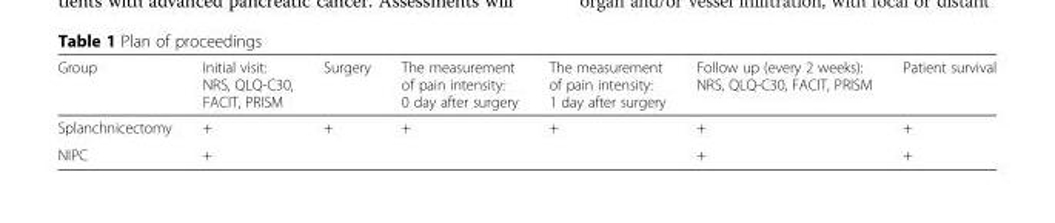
<table><thead><tr><td>Group</td><td>Initial visit: NRS, QLQ-C30, FACIT, PRISM</td><td>Surgery</td><td>The measurement of pain intensity: 0 day after surgery</td><td>The measurement of pain intensity: 1 day after surgery</td><td>Follow up (every 2 weeks): NRS, QLQ-C30, FACIT, PRISM</td><td>Patient survival</td></tr></thead><tbody><tr><td>Splanchnicectomy</td><td>+</td><td>+</td><td>+</td><td>+</td><td>+</td><td>+</td></tr><tr><td>NIPC</td><td>+</td><td></td><td></td><td></td><td>+</td><td>+</td></tr></tbody></table>